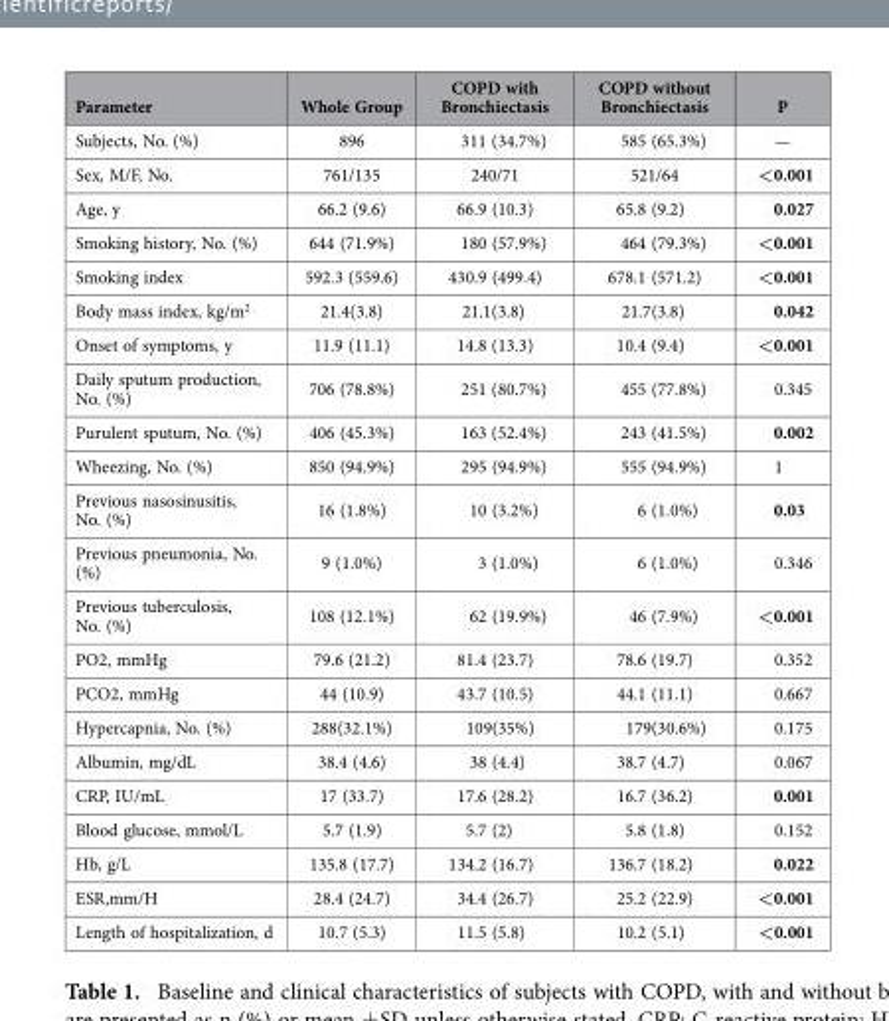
<table><thead><tr><td>Parameter</td><td>Whole Group</td><td>COPD with Bronchiectasis</td><td>COPD without Bronchiectasis</td><td>P</td></tr></thead><tbody><tr><td>Subjects, No. (%)</td><td>896</td><td>311 (34.7%)</td><td>585 (65.3%)</td><td>—</td></tr><tr><td>Sex, M/F, No.</td><td>761/135</td><td>240/71</td><td>521/64</td><td>&lt;0.001</td></tr><tr><td>Age, y</td><td>66.2 (9.6)</td><td>66.9 (10.3)</td><td>65.8 (9.2)</td><td>0.027</td></tr><tr><td>Smoking history, No. (%)</td><td>644 (71.9%)</td><td>180 (57.9%)</td><td>464 (79.3%)</td><td>&lt;0.001</td></tr><tr><td>Smoking index</td><td>592.3 (559.6)</td><td>430.9 (499.4)</td><td>678.1 (571.2)</td><td>&lt;0.001</td></tr><tr><td>Body mass index, kg/m<sup>2</sup></td><td>21.4(3.8)</td><td>21.1(3.8)</td><td>21.7(3.8)</td><td>0.042</td></tr><tr><td>Onset of symptoms, y</td><td>11.9 (11.1)</td><td>14.8 (13.3)</td><td>10.4 (9.4)</td><td>&lt;0.001</td></tr><tr><td>Daily sputum production, No. (%)</td><td>706 (78.8%)</td><td>251 (80.7%)</td><td>455 (77.8%)</td><td>0.345</td></tr><tr><td>Purulent sputum, No. (%)</td><td>406 (45.3%)</td><td>163 (52.4%)</td><td>243 (41.5%)</td><td>0.002</td></tr><tr><td>Wheezing, No. (%)</td><td>850 (94.9%)</td><td>295 (94.9%)</td><td>555 (94.9%)</td><td>1</td></tr><tr><td>Previous nasosinusitis, No. (%)</td><td>16 (1.8%)</td><td>10 (3.2%)</td><td>6 (1.0%)</td><td>0.03</td></tr><tr><td>Previous pneumonia, No. (%)</td><td>9 (1.0%)</td><td>3 (1.0%)</td><td>6 (1.0%)</td><td>0.346</td></tr><tr><td>Previous tuberculosis, No. (%)</td><td>108 (12.1%)</td><td>62 (19.9%)</td><td>46 (7.9%)</td><td>&lt;0.001</td></tr><tr><td>PO2, mmHg</td><td>79.6 (21.2)</td><td>81.4 (23.7)</td><td>78.6 (19.7)</td><td>0.352</td></tr><tr><td>PCO2, mmHg</td><td>44 (10.9)</td><td>43.7 (10.5)</td><td>44.1 (11.1)</td><td>0.667</td></tr><tr><td>Hypercapnia, No. (%)</td><td>288(32.1%)</td><td>109(35%)</td><td>179(30.6%)</td><td>0.175</td></tr><tr><td>Albumin, mg/dL</td><td>38.4 (4.6)</td><td>38 (4.4)</td><td>38.7 (4.7)</td><td>0.067</td></tr><tr><td>CRP, IU/mL</td><td>17 (33.7)</td><td>17.6 (28.2)</td><td>16.7 (36.2)</td><td>0.001</td></tr><tr><td>Blood glucose, mmol/L</td><td>5.7 (1.9)</td><td>5.7 (2)</td><td>5.8 (1.8)</td><td>0.152</td></tr><tr><td>Hb, g/L</td><td>135.8 (17.7)</td><td>134.2 (16.7)</td><td>136.7 (18.2)</td><td>0.022</td></tr><tr><td>ESR,mm/H</td><td>28.4 (24.7)</td><td>34.4 (26.7)</td><td>25.2 (22.9)</td><td>&lt;0.001</td></tr><tr><td>Length of hospitalization, d</td><td>10.7 (5.3)</td><td>11.5 (5.8)</td><td>10.2 (5.1)</td><td>&lt;0.001</td></tr></tbody></table>